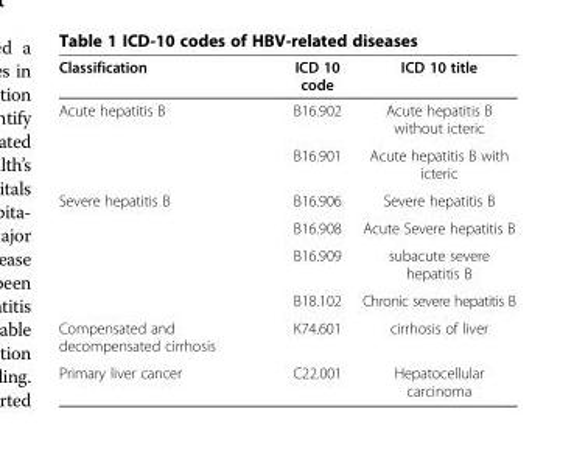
<table><thead><tr><td>Classification</td><td>ICD 10 code</td><td>ICD 10 title</td></tr></thead><tbody><tr><td rowspan="2">Acute hepatitis B</td><td>B16.902</td><td>Acute hepatitis B without icteric</td></tr><tr><td>B16.901</td><td>Acute hepatitis B with icteric</td></tr><tr><td rowspan="4">Severe hepatitis B</td><td>B16.906</td><td>Severe hepatitis B</td></tr><tr><td>B16.908</td><td>Acute Severe hepatitis B</td></tr><tr><td>B16.909</td><td>subacute severe hepatitis B</td></tr><tr><td>B18.102</td><td>Chronic severe hepatitis B</td></tr><tr><td>Compensated and decompensated cirrhosis</td><td>K74.601</td><td>cirrhosis of liver</td></tr><tr><td>Primary liver cancer</td><td>C22.001</td><td>Hepatocellular carcinoma</td></tr></tbody></table>